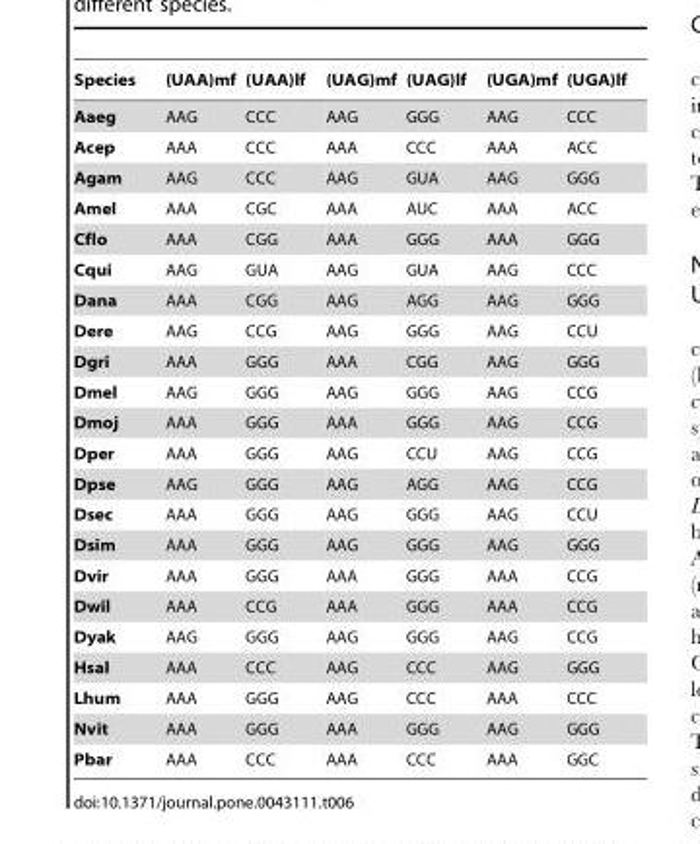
<table><thead><tr><td>Species</td><td>(UAA)mf</td><td>(UAA)lf</td><td>(UAG)mf</td><td>(UAG)lf</td><td>(UGA)mf</td><td>(UGA)lf</td></tr></thead><tbody><tr><td>Aaeg</td><td>AAG</td><td>CCC</td><td>AAG</td><td>GGG</td><td>AAG</td><td>CCC</td></tr><tr><td>Acep</td><td>AAA</td><td>CCC</td><td>AAA</td><td>CCC</td><td>AAA</td><td>ACC</td></tr><tr><td>Agam</td><td>AAG</td><td>CCC</td><td>AAG</td><td>GUA</td><td>AAG</td><td>GGG</td></tr><tr><td>Amel</td><td>AAA</td><td>CGC</td><td>AAA</td><td>AUC</td><td>AAA</td><td>ACC</td></tr><tr><td>Cflo</td><td>AAA</td><td>CGG</td><td>AAA</td><td>GGG</td><td>AAA</td><td>GGG</td></tr><tr><td>Cqui</td><td>AAG</td><td>GUA</td><td>AAG</td><td>GUA</td><td>AAG</td><td>CCC</td></tr><tr><td>Dana</td><td>AAA</td><td>CGG</td><td>AAG</td><td>AGG</td><td>AAG</td><td>GGG</td></tr><tr><td>Dere</td><td>AAG</td><td>CCG</td><td>AAG</td><td>GGG</td><td>AAG</td><td>CCU</td></tr><tr><td>Dgri</td><td>AAA</td><td>GGG</td><td>AAA</td><td>CGG</td><td>AAG</td><td>GGG</td></tr><tr><td>Dmel</td><td>AAG</td><td>GGG</td><td>AAG</td><td>GGG</td><td>AAG</td><td>CCG</td></tr><tr><td>Dmoj</td><td>AAA</td><td>GGG</td><td>AAA</td><td>GGG</td><td>AAG</td><td>CCG</td></tr><tr><td>Dper</td><td>AAA</td><td>GGG</td><td>AAG</td><td>CCU</td><td>AAG</td><td>CCG</td></tr><tr><td>Dpse</td><td>AAG</td><td>GGG</td><td>AAG</td><td>AGG</td><td>AAG</td><td>CCG</td></tr><tr><td>Dsec</td><td>AAA</td><td>GGG</td><td>AAG</td><td>GGG</td><td>AAG</td><td>CCU</td></tr><tr><td>Dsim</td><td>AAA</td><td>GGG</td><td>AAG</td><td>GGG</td><td>AAG</td><td>GGG</td></tr><tr><td>Dvir</td><td>AAA</td><td>GGG</td><td>AAA</td><td>GGG</td><td>AAA</td><td>CCG</td></tr><tr><td>Dwil</td><td>AAA</td><td>CCG</td><td>AAA</td><td>GGG</td><td>AAA</td><td>CCG</td></tr><tr><td>Dyak</td><td>AAG</td><td>GGG</td><td>AAG</td><td>GGG</td><td>AAG</td><td>CCG</td></tr><tr><td>Hsal</td><td>AAA</td><td>CCC</td><td>AAG</td><td>CCC</td><td>AAG</td><td>GGG</td></tr><tr><td>Lhum</td><td>AAA</td><td>GGG</td><td>AAG</td><td>CCC</td><td>AAA</td><td>CCC</td></tr><tr><td>Nvit</td><td>AAA</td><td>GGG</td><td>AAA</td><td>GGG</td><td>AAG</td><td>GGG</td></tr><tr><td>Pbar</td><td>AAA</td><td>CCC</td><td>AAA</td><td>CCC</td><td>AAA</td><td>GGC</td></tr></tbody></table>